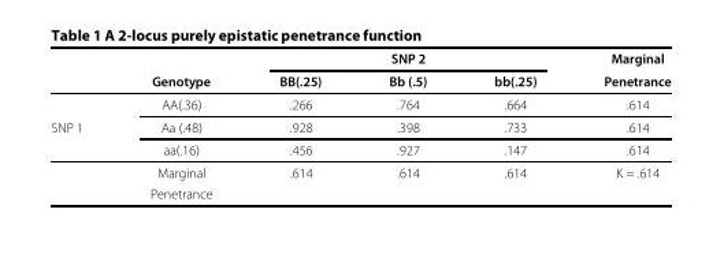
<table><thead><tr><td rowspan="2"></td><td rowspan="2">Genotype</td><td colspan="3">SNP 2</td><td rowspan="2">Marginal Penetrance</td></tr><tr><td>BB(.25)</td><td>Bb (.5)</td><td>bb(.25)</td></tr></thead><tbody><tr><td></td><td>AA(.36)</td><td>.266</td><td>.764</td><td>.664</td><td>.614</td></tr><tr><td rowspan="4">SNP 1</td><td>Aa (.48)</td><td>.928</td><td>.398</td><td>.733</td><td>.614</td></tr><tr><td>aa(.16)</td><td>.456</td><td>.927</td><td>.147</td><td>.614</td></tr><tr><td>Marginal</td><td>.614</td><td>.614</td><td>.614</td><td>K = .614</td></tr><tr><td>Penetrance</td><td></td><td></td><td></td><td></td></tr></tbody></table>